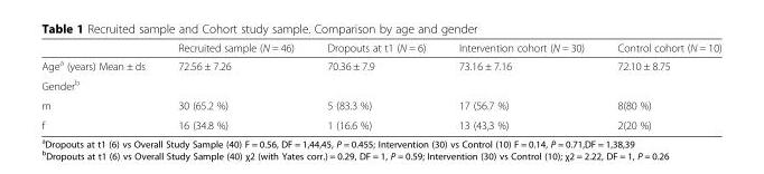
<table><thead><tr><td></td><td>Recruited sample (N = 46)</td><td>Dropouts at t1 (N = 6)</td><td>Intervention cohort (N = 30)</td><td>Control cohort (N = 10)</td></tr></thead><tbody><tr><td>Age<sup>a</sup> (years) Mean ± ds</td><td>72.56 ± 7.26</td><td>70.36 ± 7.9</td><td>73.16 ± 7.16</td><td>72.10 ± 8.75</td></tr><tr><td colspan="5">Gender<sup>b</sup></td></tr><tr><td>m</td><td>30 (65.2 %)</td><td>5 (83.3 %)</td><td>17 (56.7 %)</td><td>8(80 %)</td></tr><tr><td>f</td><td>16 (34.8 %)</td><td>1 (16.6 %)</td><td>13 (43,3 %)</td><td>2(20 %)</td></tr></tbody></table>